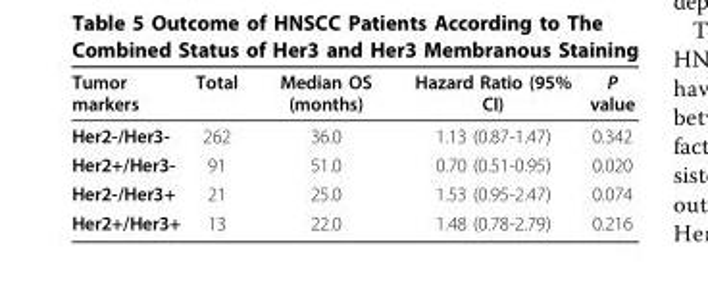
<table><thead><tr><td>Tumor markers</td><td>Total</td><td>Median OS (months)</td><td>Hazard Ratio (95% CI)</td><td>P value</td></tr></thead><tbody><tr><td>Her2-/Her3-</td><td>262</td><td>36.0</td><td>1.13 (0.87-1.47)</td><td>0.342</td></tr><tr><td>Her2+/Her3-</td><td>91</td><td>51.0</td><td>0.70 (0.51-0.95)</td><td>0.020</td></tr><tr><td>Her2-/Her3+</td><td>21</td><td>25.0</td><td>1.53 (0.95-2.47)</td><td>0.074</td></tr><tr><td>Her2+/Her3+</td><td>13</td><td>22.0</td><td>1.48 (0.78-2.79)</td><td>0.216</td></tr></tbody></table>